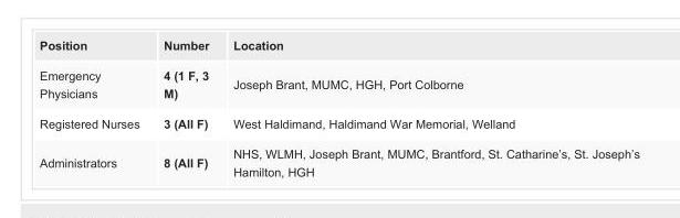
<table><tbody><tr><td>Position</td><td>Number</td><td>Location</td></tr><tr><td>Emergency Physicians</td><td>4 (1 F, 3 M)</td><td>Joseph Brant, MUMC, HGH, Port Colborne</td></tr><tr><td>Registered Nurses</td><td>3 (All F)</td><td>West Haldimand, Haldimand War Memorial, Welland</td></tr><tr><td>Administrators</td><td>8 (All F)</td><td>NHS, WLMH, Joseph Brant, MUMC, Brantford, St. Catharine’s, St. Joseph’s Hamilton, HGH</td></tr></tbody></table>